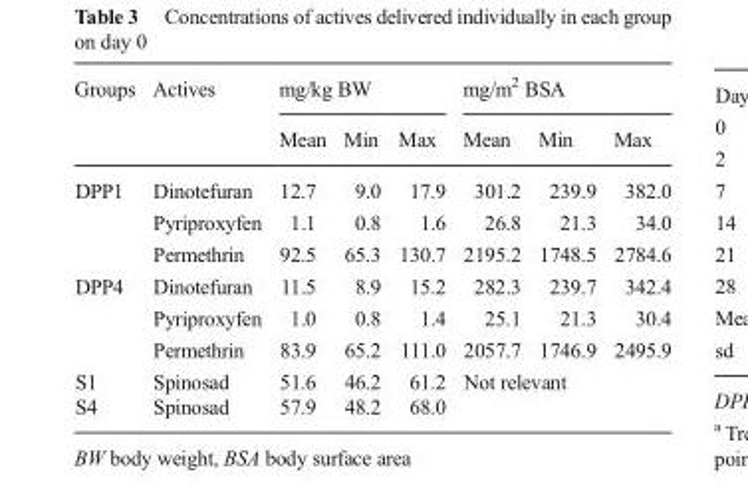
<table><thead><tr><td rowspan="2">Groups</td><td rowspan="2">Actives</td><td colspan="3">mg/kg BW</td><td colspan="3">mg/m<sup>2</sup> BSA</td></tr><tr><td>Mean</td><td>Min</td><td>Max</td><td>Mean</td><td>Min</td><td>Max</td></tr></thead><tbody><tr><td rowspan="3">DPP1</td><td>Dinotefuran</td><td>12.7</td><td>9.0</td><td>17.9</td><td>301.2</td><td>239.9</td><td>382.0</td></tr><tr><td>Pyriproxyfen</td><td>1.1</td><td>0.8</td><td>1.6</td><td>26.8</td><td>21.3</td><td>34.0</td></tr><tr><td>Permethrin</td><td>92.5</td><td>65.3</td><td>130.7</td><td>2195.2</td><td>1748.5</td><td>2784.6</td></tr><tr><td rowspan="3">DPP4</td><td>Dinotefuran</td><td>11.5</td><td>8.9</td><td>15.2</td><td>282.3</td><td>239.7</td><td>342.4</td></tr><tr><td>Pyriproxyfen</td><td>1.0</td><td>0.8</td><td>1.4</td><td>25.1</td><td>21.3</td><td>30.4</td></tr><tr><td>Permethrin</td><td>83.9</td><td>65.2</td><td>111.0</td><td>2057.7</td><td>1746.9</td><td>2495.9</td></tr><tr><td>S1</td><td>Spinosad</td><td>51.6</td><td>46.2</td><td>61.2</td><td rowspan="2" colspan="3">Not relevant</td></tr><tr><td>S4</td><td>Spinosad</td><td>57.9</td><td>48.2</td><td>68.0</td></tr></tbody></table>